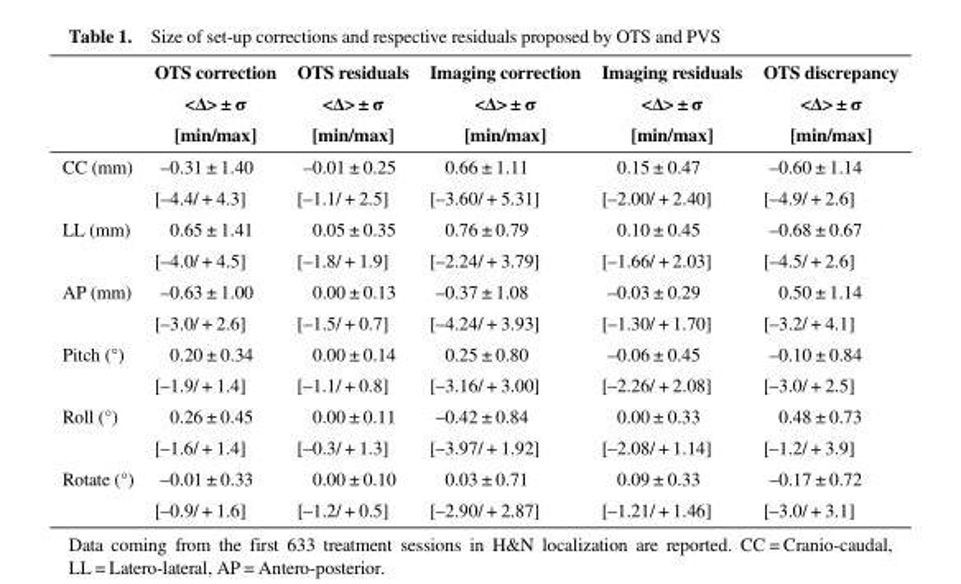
<table><thead><tr><td rowspan="3"></td><td rowspan="3">OTS correction &lt;Δ&gt; ± σ [min/max]</td><td rowspan="3">OTS residuals &lt;Δ&gt; ± σ [min/max]</td><td rowspan="3">Imaging correction &lt;Δ&gt; ± σ [min/max]</td><td rowspan="3">Imaging residuals &lt;Δ&gt; ± σ [min/max]</td><td rowspan="3">OTS discrepancy &lt;Δ&gt; ± σ [min/max]</td></tr><tr></tr><tr></tr></thead><tbody><tr><td rowspan="2">CC (mm)</td><td>–0.31 ± 1.40</td><td>–0.01 ± 0.25</td><td>0.66 ± 1.11</td><td>0.15 ± 0.47</td><td>–0.60 ± 1.14</td></tr><tr><td>[–4.4/ + 4.3]</td><td>[–1.1/ + 2.5]</td><td>[–3.60/ + 5.31]</td><td>[–2.00/ + 2.40]</td><td>[–4.9/ + 2.6]</td></tr><tr><td rowspan="2">LL (mm)</td><td>0.65 ± 1.41</td><td>0.05 ± 0.35</td><td>0.76 ± 0.79</td><td>0.10 ± 0.45</td><td>–0.68 ± 0.67</td></tr><tr><td>[–4.0/ + 4.5]</td><td>[–1.8/ + 1.9]</td><td>[–2.24/ + 3.79]</td><td>[–1.66/ + 2.03]</td><td>[–4.5/ + 2.6]</td></tr><tr><td rowspan="2">AP (mm)</td><td>–0.63 ± 1.00</td><td>0.00 ± 0.13</td><td>–0.37 ± 1.08</td><td>–0.03 ± 0.29</td><td>0.50 ± 1.14</td></tr><tr><td>[–3.0/ + 2.6]</td><td>[–1.5/ + 0.7]</td><td>[–4.24/ + 3.93]</td><td>[–1.30/ + 1.70]</td><td>[–3.2/ + 4.1]</td></tr><tr><td rowspan="2">Pitch (°)</td><td>0.20 ± 0.34</td><td>0.00 ± 0.14</td><td>0.25 ± 0.80</td><td>–0.06 ± 0.45</td><td>–0.10 ± 0.84</td></tr><tr><td>[–1.9/ + 1.4]</td><td>[–1.1/ + 0.8]</td><td>[–3.16/ + 3.00]</td><td>[–2.26/ + 2.08]</td><td>[–3.0/ + 2.5]</td></tr><tr><td rowspan="2">Roll (°)</td><td>0.26 ± 0.45</td><td>0.00 ± 0.11</td><td>–0.42 ± 0.84</td><td>0.00 ± 0.33</td><td>0.48 ± 0.73</td></tr><tr><td>[–1.6/ + 1.4]</td><td>[–0.3/ + 1.3]</td><td>[–3.97/ + 1.92]</td><td>[–2.08/ + 1.14]</td><td>[–1.2/ + 3.9]</td></tr><tr><td rowspan="2">Rotate (°)</td><td>–0.01 ± 0.33</td><td>0.00 ± 0.10</td><td>0.03 ± 0.71</td><td>0.09 ± 0.33</td><td>–0.17 ± 0.72</td></tr><tr><td>[–0.9/ + 1.6]</td><td>[–1.2/ + 0.5]</td><td>[–2.90/ + 2.87]</td><td>[–1.21/ + 1.46]</td><td>[–3.0/ + 3.1]</td></tr></tbody></table>